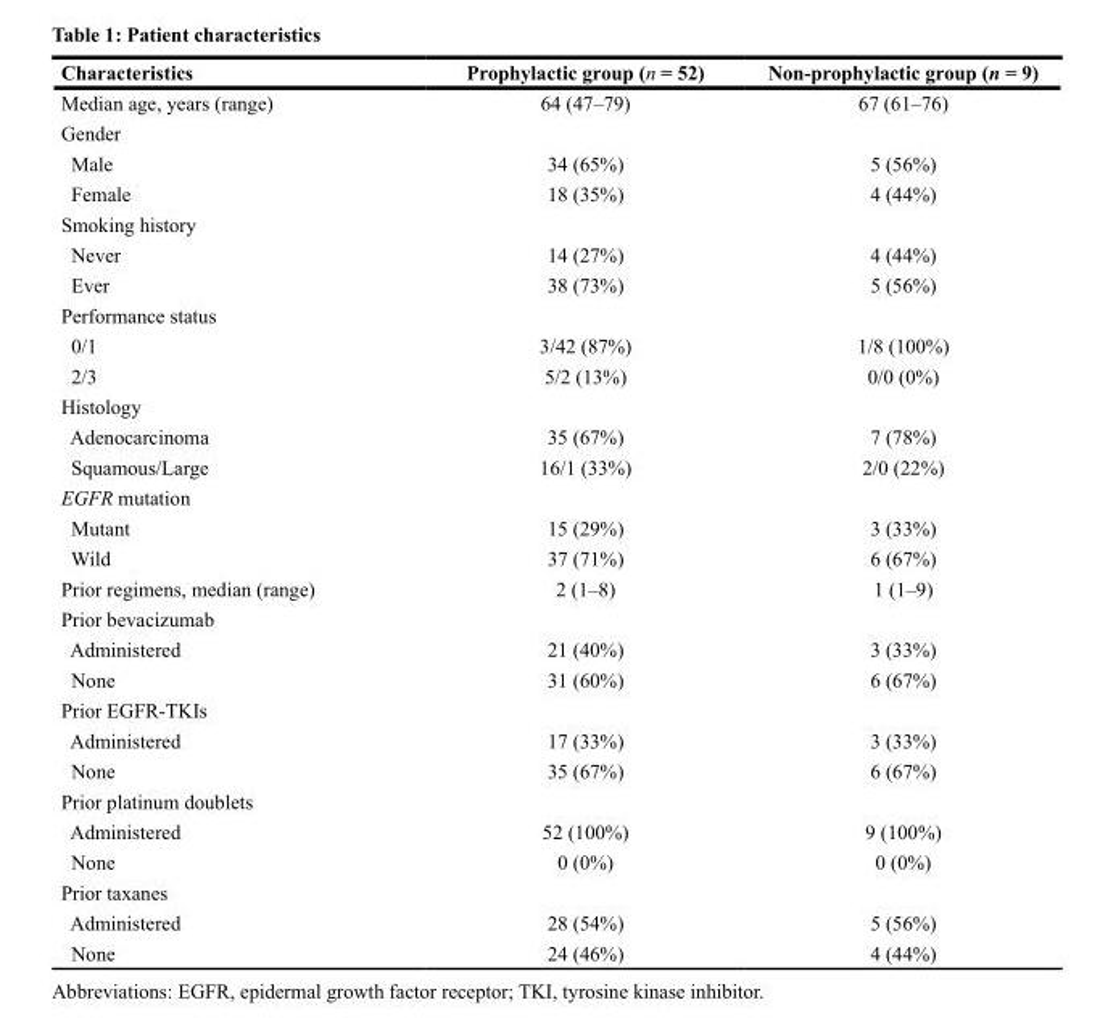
<table><thead><tr><td>Characteristics</td><td>Prophylactic group (n = 52)</td><td>Non-prophylactic group (n = 9)</td></tr></thead><tbody><tr><td>Median age, years (range)</td><td>64 (47–79)</td><td>67 (61–76)</td></tr><tr><td colspan="3">Gender</td></tr><tr><td>Male</td><td>34 (65%)</td><td>5 (56%)</td></tr><tr><td>Female</td><td>18 (35%)</td><td>4 (44%)</td></tr><tr><td colspan="3">Smoking history</td></tr><tr><td>Never</td><td>14 (27%)</td><td>4 (44%)</td></tr><tr><td>Ever</td><td>38 (73%)</td><td>5 (56%)</td></tr><tr><td colspan="3">Performance status</td></tr><tr><td>0/1</td><td>3/42 (87%)</td><td>1/8 (100%)</td></tr><tr><td>2/3</td><td>5/2 (13%)</td><td>0/0 (0%)</td></tr><tr><td colspan="3">Histology</td></tr><tr><td>Adenocarcinoma</td><td>35 (67%)</td><td>7 (78%)</td></tr><tr><td>Squamous/Large</td><td>16/1 (33%)</td><td>2/0 (22%)</td></tr><tr><td colspan="3">EGFR mutation</td></tr><tr><td>Mutant</td><td>15 (29%)</td><td>3 (33%)</td></tr><tr><td>Wild</td><td>37 (71%)</td><td>6 (67%)</td></tr><tr><td>Prior regimens, median (range)</td><td>2 (1–8)</td><td>1 (1–9)</td></tr><tr><td colspan="3">Prior bevacizumab</td></tr><tr><td>Administered</td><td>21 (40%)</td><td>3 (33%)</td></tr><tr><td>None</td><td>31 (60%)</td><td>6 (67%)</td></tr><tr><td colspan="3">Prior EGFR-TKIs</td></tr><tr><td>Administered</td><td>17 (33%)</td><td>3 (33%)</td></tr><tr><td>None</td><td>35 (67%)</td><td>6 (67%)</td></tr><tr><td colspan="3">Prior platinum doublets</td></tr><tr><td>Administered</td><td>52 (100%)</td><td>9 (100%)</td></tr><tr><td>None</td><td>0 (0%)</td><td>0 (0%)</td></tr><tr><td colspan="3">Prior taxanes</td></tr><tr><td>Administered</td><td>28 (54%)</td><td>5 (56%)</td></tr><tr><td>None</td><td>24 (46%)</td><td>4 (44%)</td></tr></tbody></table>